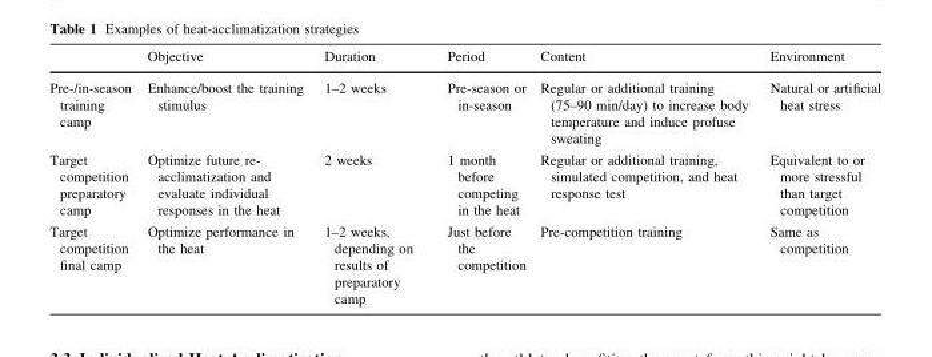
<table><thead><tr><td></td><td>Objective</td><td>Duration</td><td>Period</td><td>Content</td><td>Environment</td></tr></thead><tbody><tr><td>Pre-/in-season training camp</td><td>Enhance/boost the training stimulus</td><td>1–2 weeks</td><td>Pre-season or in-season</td><td>Regular or additional training (75–90 min/day) to increase body temperature and induce profuse sweating</td><td>Natural or artificial heat stress</td></tr><tr><td>Target competition preparatory camp</td><td>Optimize future re- acclimatization and evaluate individual responses in the heat</td><td>2 weeks</td><td>1 month before competing in the heat</td><td>Regular or additional training, simulated competition, and heat response test</td><td>Equivalent to or more stressful than target competition</td></tr><tr><td>Target competition final camp</td><td>Optimize performance in the heat</td><td>1–2 weeks, depending on results of preparatory camp</td><td>Just before the competition</td><td>Pre-competition training</td><td>Same as competition</td></tr></tbody></table>